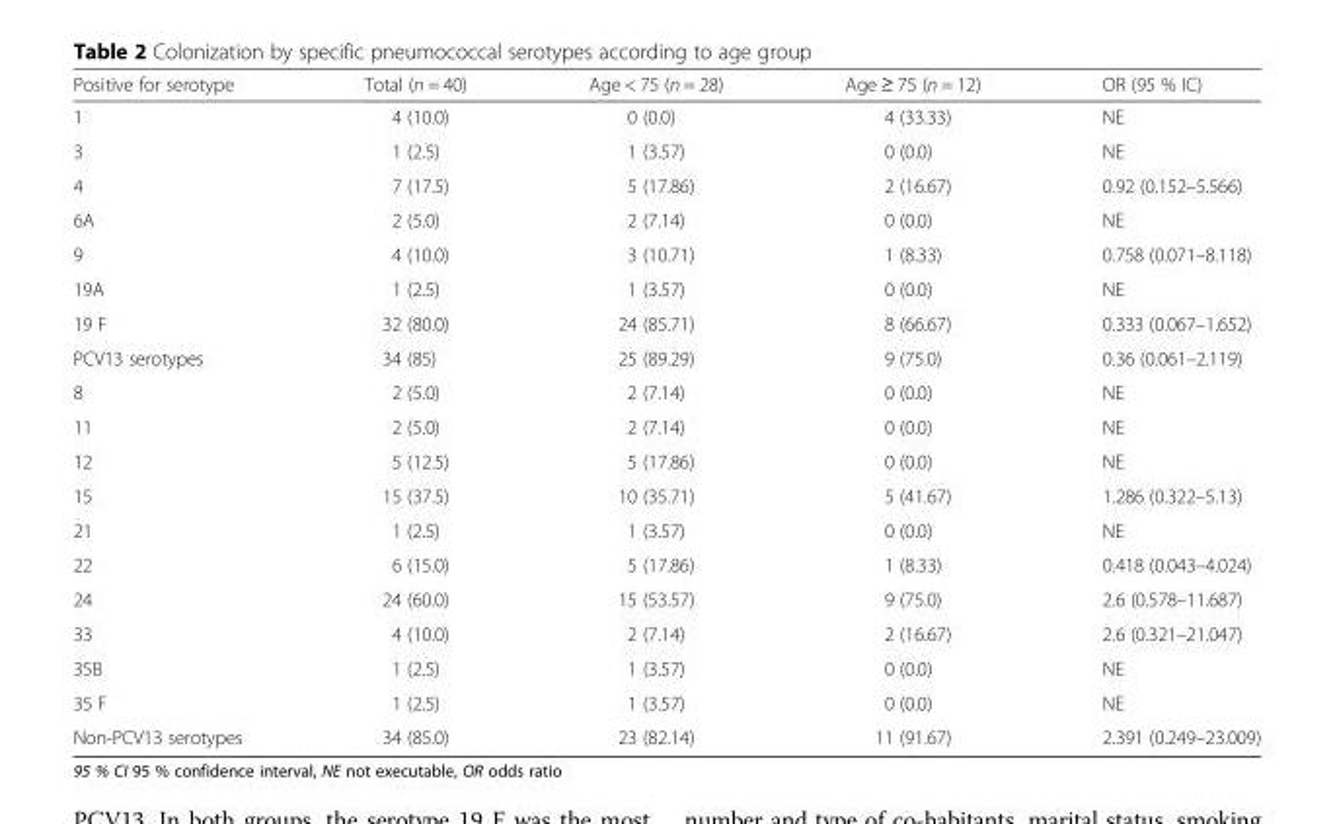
<table><thead><tr><td>Positive for serotype</td><td>Total (n = 40)</td><td>Age &lt; 75 (n = 28)</td><td>Age ≥ 75 (n = 12)</td><td>OR (95 % IC)</td></tr></thead><tbody><tr><td>1</td><td>4 (10.0)</td><td>0 (0.0)</td><td>4 (33.33)</td><td>NE</td></tr><tr><td>3</td><td>1 (2.5)</td><td>1 (3.57)</td><td>0 (0.0)</td><td>NE</td></tr><tr><td>4</td><td>7 (17.5)</td><td>5 (17.86)</td><td>2 (16.67)</td><td>0.92 (0.152–5.566)</td></tr><tr><td>6A</td><td>2 (5.0)</td><td>2 (7.14)</td><td>0 (0.0)</td><td>NE</td></tr><tr><td>9</td><td>4 (10.0)</td><td>3 (10.71)</td><td>1 (8.33)</td><td>0.758 (0.071–8.118)</td></tr><tr><td>19A</td><td>1 (2.5)</td><td>1 (3.57)</td><td>0 (0.0)</td><td>NE</td></tr><tr><td>19 F</td><td>32 (80.0)</td><td>24 (85.71)</td><td>8 (66.67)</td><td>0.333 (0.067–1.652)</td></tr><tr><td>PCV13 serotypes</td><td>34 (85)</td><td>25 (89.29)</td><td>9 (75.0)</td><td>0.36 (0.061–2.119)</td></tr><tr><td>8</td><td>2 (5.0)</td><td>2 (7.14)</td><td>0 (0.0)</td><td>NE</td></tr><tr><td>11</td><td>2 (5.0)</td><td>2 (7.14)</td><td>0 (0.0)</td><td>NE</td></tr><tr><td>12</td><td>5 (12.5)</td><td>5 (17.86)</td><td>0 (0.0)</td><td>NE</td></tr><tr><td>15</td><td>15 (37.5)</td><td>10 (35.71)</td><td>5 (41.67)</td><td>1.286 (0.322–5.13)</td></tr><tr><td>21</td><td>1 (2.5)</td><td>1 (3.57)</td><td>0 (0.0)</td><td>NE</td></tr><tr><td>22</td><td>6 (15.0)</td><td>5 (17.86)</td><td>1 (8.33)</td><td>0.418 (0.043–4.024)</td></tr><tr><td>24</td><td>24 (60.0)</td><td>15 (53.57)</td><td>9 (75.0)</td><td>2.6 (0.578–11.687)</td></tr><tr><td>33</td><td>4 (10.0)</td><td>2 (7.14)</td><td>2 (16.67)</td><td>2.6 (0.321–21.047)</td></tr><tr><td>35B</td><td>1 (2.5)</td><td>1 (3.57)</td><td>0 (0.0)</td><td>NE</td></tr><tr><td>35 F</td><td>1 (2.5)</td><td>1 (3.57)</td><td>0 (0.0)</td><td>NE</td></tr><tr><td>Non-PCV13 serotypes</td><td>34 (85.0)</td><td>23 (82.14)</td><td>11 (91.67)</td><td>2.391 (0.249–23.009)</td></tr></tbody></table>